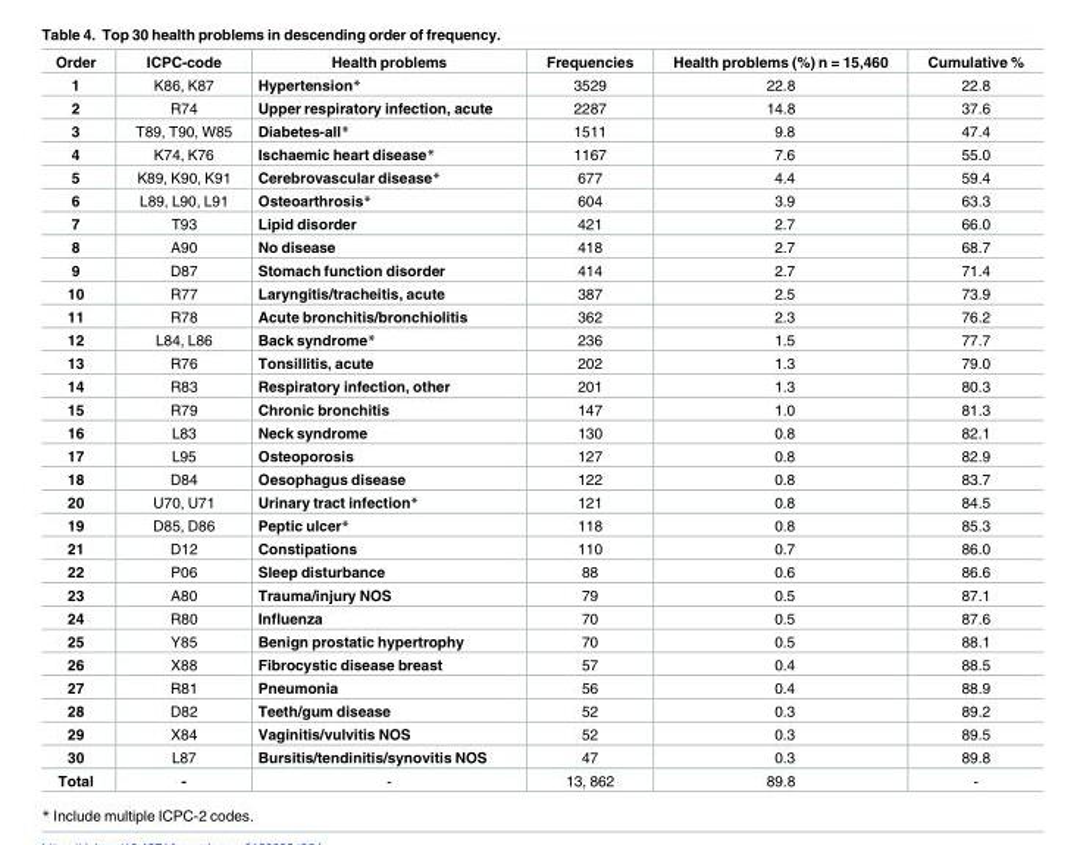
<table><thead><tr><td>Order</td><td>ICPC-code</td><td>Health problems</td><td>Frequencies</td><td>Health problems (%) n = 15,460</td><td>Cumulative %</td></tr></thead><tbody><tr><td>1</td><td>K86, K87</td><td>Hypertension*</td><td>3529</td><td>22.8</td><td>22.8</td></tr><tr><td>2</td><td>R74</td><td>Upper respiratory infection, acute</td><td>2287</td><td>14.8</td><td>37.6</td></tr><tr><td>3</td><td>T89, T90, W85</td><td>Diabetes-all*</td><td>1511</td><td>9.8</td><td>47.4</td></tr><tr><td>4</td><td>K74, K76</td><td>Ischaemic heart disease*</td><td>1167</td><td>7.6</td><td>55.0</td></tr><tr><td>5</td><td>K89, K90, K91</td><td>Cerebrovascular disease*</td><td>677</td><td>4.4</td><td>59.4</td></tr><tr><td>6</td><td>L89, L90, L91</td><td>Osteoarthrosis*</td><td>604</td><td>3.9</td><td>63.3</td></tr><tr><td>7</td><td>T93</td><td>Lipid disorder</td><td>421</td><td>2.7</td><td>66.0</td></tr><tr><td>8</td><td>A90</td><td>No disease</td><td>418</td><td>2.7</td><td>68.7</td></tr><tr><td>9</td><td>D87</td><td>Stomach function disorder</td><td>414</td><td>2.7</td><td>71.4</td></tr><tr><td>10</td><td>R77</td><td>Laryngitis/tracheitis, acute</td><td>387</td><td>2.5</td><td>73.9</td></tr><tr><td>11</td><td>R78</td><td>Acute bronchitis/bronchiolitis</td><td>362</td><td>2.3</td><td>76.2</td></tr><tr><td>12</td><td>L84, L86</td><td>Back syndrome*</td><td>236</td><td>1.5</td><td>77.7</td></tr><tr><td>13</td><td>R76</td><td>Tonsillitis, acute</td><td>202</td><td>1.3</td><td>79.0</td></tr><tr><td>14</td><td>R83</td><td>Respiratory infection, other</td><td>201</td><td>1.3</td><td>80.3</td></tr><tr><td>15</td><td>R79</td><td>Chronic bronchitis</td><td>147</td><td>1.0</td><td>81.3</td></tr><tr><td>16</td><td>L83</td><td>Neck syndrome</td><td>130</td><td>0.8</td><td>82.1</td></tr><tr><td>17</td><td>L95</td><td>Osteoporosis</td><td>127</td><td>0.8</td><td>82.9</td></tr><tr><td>18</td><td>D84</td><td>Oesophagus disease</td><td>122</td><td>0.8</td><td>83.7</td></tr><tr><td>20</td><td>U70, U71</td><td>Urinary tract infection*</td><td>121</td><td>0.8</td><td>84.5</td></tr><tr><td>19</td><td>D85, D86</td><td>Peptic ulcer*</td><td>118</td><td>0.8</td><td>85.3</td></tr><tr><td>21</td><td>D12</td><td>Constipations</td><td>110</td><td>0.7</td><td>86.0</td></tr><tr><td>22</td><td>P06</td><td>Sleep disturbance</td><td>88</td><td>0.6</td><td>86.6</td></tr><tr><td>23</td><td>A80</td><td>Trauma/injury NOS</td><td>79</td><td>0.5</td><td>87.1</td></tr><tr><td>24</td><td>R80</td><td>Influenza</td><td>70</td><td>0.5</td><td>87.6</td></tr><tr><td>25</td><td>Y85</td><td>Benign prostatic hypertrophy</td><td>70</td><td>0.5</td><td>88.1</td></tr><tr><td>26</td><td>X88</td><td>Fibrocystic disease breast</td><td>57</td><td>0.4</td><td>88.5</td></tr><tr><td>27</td><td>R81</td><td>Pneumonia</td><td>56</td><td>0.4</td><td>88.9</td></tr><tr><td>28</td><td>D82</td><td>Teeth/gum disease</td><td>52</td><td>0.3</td><td>89.2</td></tr><tr><td>29</td><td>X84</td><td>Vaginitis/vulvitis NOS</td><td>52</td><td>0.3</td><td>89.5</td></tr><tr><td>30</td><td>L87</td><td>Bursitis/tendinitis/synovitis NOS</td><td>47</td><td>0.3</td><td>89.8</td></tr><tr><td>Total</td><td>-</td><td>-</td><td>13, 862</td><td>89.8</td><td>-</td></tr></tbody></table>